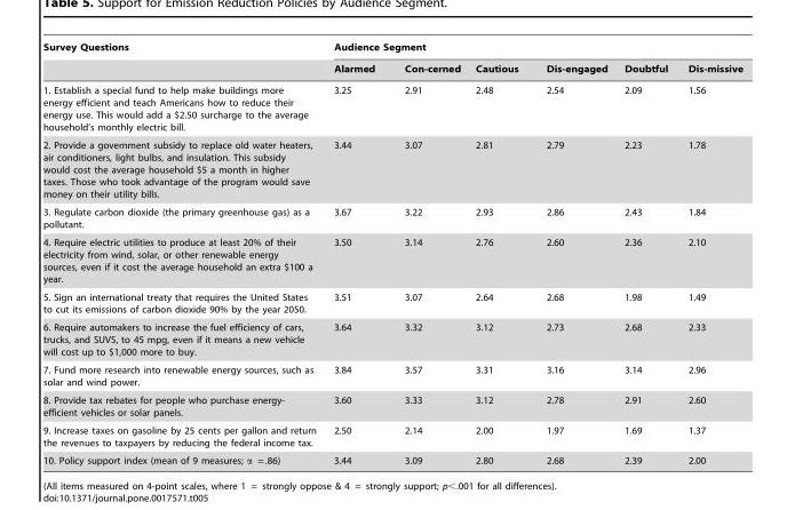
<table><thead><tr><td rowspan="2">Survey Questions</td><td colspan="6">Audience Segment</td></tr><tr><td>Alarmed</td><td>Con-cerned</td><td>Cautious</td><td>Dis-engaged</td><td>Doubtful</td><td>Dis-missive</td></tr></thead><tbody><tr><td>1. Establish a special fund to help make buildings more energy efficient and teach Americans how to reduce their energy use. This would add a $2.50 surcharge to the average household’s monthly electric bill.</td><td>3.25</td><td>2.91</td><td>2.48</td><td>2.54</td><td>2.09</td><td>1.56</td></tr><tr><td>2. Provide a government subsidy to replace old water heaters, air conditioners, light bulbs, and insulation. This subsidy would cost the average household $5 a month in higher taxes. Those who took advantage of the program would save money on their utility bills.</td><td>3.44</td><td>3.07</td><td>2.81</td><td>2.79</td><td>2.23</td><td>1.78</td></tr><tr><td>3. Regulate carbon dioxide (the primary greenhouse gas) as a pollutant.</td><td>3.67</td><td>3.22</td><td>2.93</td><td>2.86</td><td>2.43</td><td>1.84</td></tr><tr><td>4. Require electric utilities to produce at least 20% of their electricity from wind, solar, or other renewable energy sources, even if it cost the average household an extra $100 a year.</td><td>3.50</td><td>3.14</td><td>2.76</td><td>2.60</td><td>2.36</td><td>2.10</td></tr><tr><td>5. Sign an international treaty that requires the United States to cut its emissions of carbon dioxide 90% by the year 2050.</td><td>3.51</td><td>3.07</td><td>2.64</td><td>2.68</td><td>1.98</td><td>1.49</td></tr><tr><td>6. Require automakers to increase the fuel efficiency of cars, trucks, and SUVS, to 45 mpg, even if it means a new vehicle will cost up to $1,000 more to buy.</td><td>3.64</td><td>3.32</td><td>3.12</td><td>2.73</td><td>2.68</td><td>2.33</td></tr><tr><td>7. Fund more research into renewable energy sources, such as solar and wind power.</td><td>3.84</td><td>3.57</td><td>3.31</td><td>3.16</td><td>3.14</td><td>2.96</td></tr><tr><td>8. Provide tax rebates for people who purchase energy- efficient vehicles or solar panels.</td><td>3.60</td><td>3.33</td><td>3.12</td><td>2.78</td><td>2.91</td><td>2.60</td></tr><tr><td>9. Increase taxes on gasoline by 25 cents per gallon and return the revenues to taxpayers by reducing the federal income tax.</td><td>2.50</td><td>2.14</td><td>2.00</td><td>1.97</td><td>1.69</td><td>1.37</td></tr><tr><td>10. Policy support index (mean of 9 measures; α = .86)</td><td>3.44</td><td>3.09</td><td>2.80</td><td>2.68</td><td>2.39</td><td>2.00</td></tr></tbody></table>